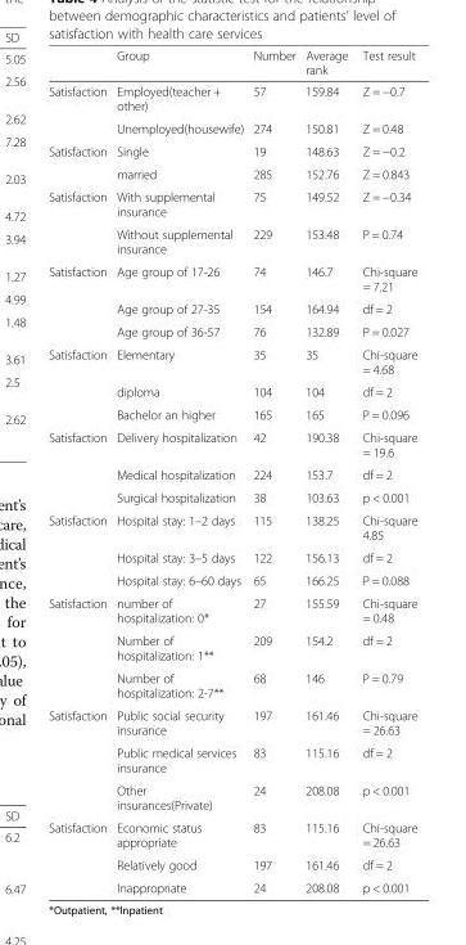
<table><thead><tr><td></td><td>Group</td><td>Number</td><td>Average rank</td><td>Test result</td></tr></thead><tbody><tr><td rowspan="2">Satisfaction</td><td>Employed(teacher + other)</td><td>57</td><td>159.84</td><td>Z = −0.7</td></tr><tr><td>Unemployed(housewife)</td><td>274</td><td>150.81</td><td>Z = 0.48</td></tr><tr><td rowspan="2">Satisfaction</td><td>Single</td><td>19</td><td>148.63</td><td>Z = −0.2</td></tr><tr><td>married</td><td>285</td><td>152.76</td><td>Z = 0.843</td></tr><tr><td rowspan="2">Satisfaction</td><td>With supplemental insurance</td><td>75</td><td>149.52</td><td>Z = −0.34</td></tr><tr><td>Without supplemental insurance</td><td>229</td><td>153.48</td><td>P = 0.74</td></tr><tr><td rowspan="3">Satisfaction</td><td>Age group of 17-26</td><td>74</td><td>146.7</td><td>Chi-square = 7.21</td></tr><tr><td>Age group of 27-35</td><td>154</td><td>164.94</td><td>df = 2</td></tr><tr><td>Age group of 36-57</td><td>76</td><td>132.89</td><td>P = 0.027</td></tr><tr><td rowspan="3">Satisfaction</td><td>Elementary</td><td>35</td><td>35</td><td>Chi-square = 4.68</td></tr><tr><td>diploma</td><td>104</td><td>104</td><td>df = 2</td></tr><tr><td>Bachelor an higher</td><td>165</td><td>165</td><td>P = 0.096</td></tr><tr><td rowspan="3">Satisfaction</td><td>Delivery hospitalization</td><td>42</td><td>190.38</td><td>Chi-square = 19.6</td></tr><tr><td>Medical hospitalization</td><td>224</td><td>153.7</td><td>df = 2</td></tr><tr><td>Surgical hospitalization</td><td>38</td><td>103.63</td><td>p &lt; 0.001</td></tr><tr><td rowspan="3">Satisfaction</td><td>Hospital stay: 1–2 days</td><td>115</td><td>138.25</td><td>Chi-square 4.85</td></tr><tr><td>Hospital stay: 3–5 days</td><td>122</td><td>156.13</td><td>df = 2</td></tr><tr><td>Hospital stay: 6–60 days</td><td>65</td><td>166.25</td><td>P = 0.088</td></tr><tr><td rowspan="3">Satisfaction</td><td>number of hospitalization: 0*</td><td>27</td><td>155.59</td><td>Chi-square = 0.48</td></tr><tr><td>Number of hospitalization: 1**</td><td>209</td><td>154.2</td><td>df = 2</td></tr><tr><td>Number of hospitalization: 2-7**</td><td>68</td><td>146</td><td>P = 0.79</td></tr><tr><td rowspan="3">Satisfaction</td><td>Public social security insurance</td><td>197</td><td>161.46</td><td>Chi-square = 26.63</td></tr><tr><td>Public medical services insurance</td><td>83</td><td>115.16</td><td>df = 2</td></tr><tr><td>Other insurances(Private)</td><td>24</td><td>208.08</td><td>p &lt; 0.001</td></tr><tr><td rowspan="3">Satisfaction</td><td>Economic status appropriate</td><td>83</td><td>115.16</td><td>Chi-square = 26.63</td></tr><tr><td>Relatively good</td><td>197</td><td>161.46</td><td>df = 2</td></tr><tr><td>Inappropriate</td><td>24</td><td>208.08</td><td>p &lt; 0.001</td></tr></tbody></table>